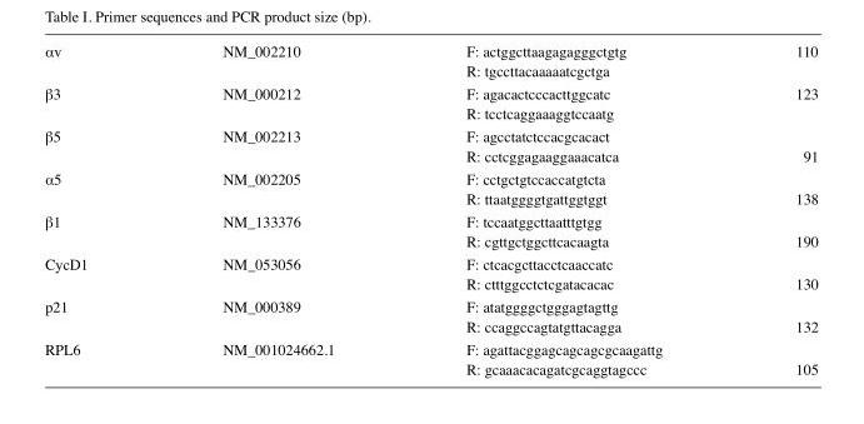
<table><tbody><tr><td rowspan="2">αv</td><td>NM_002210</td><td>F: actggcttaagagagggctgtg</td><td>110</td></tr><tr><td></td><td>R: tgccttacaaaaatcgctga</td><td></td></tr><tr><td rowspan="2">β3</td><td>NM_000212</td><td>F: agacactcccacttggcatc</td><td>123</td></tr><tr><td></td><td>R: tcctcaggaaaggtccaatg</td><td></td></tr><tr><td rowspan="2">β5</td><td>NM_002213</td><td>F: agcctatctccacgcacact</td><td></td></tr><tr><td></td><td>R: cctcggagaaggaaacatca</td><td>91</td></tr><tr><td rowspan="2">α5</td><td>NM_002205</td><td>F: cctgctgtccaccatgtcta</td><td></td></tr><tr><td></td><td>R: ttaatggggtgattggtggt</td><td>138</td></tr><tr><td rowspan="2">β1</td><td>NM_133376</td><td>F: tccaatggcttaatttgtgg</td><td></td></tr><tr><td></td><td>R: cgttgctggcttcacaagta</td><td>190</td></tr><tr><td rowspan="2">CycD1</td><td>NM_053056</td><td>F: ctcacgcttacctcaaccatc</td><td></td></tr><tr><td></td><td>R: ctttggcctctcgatacacac</td><td>130</td></tr><tr><td rowspan="2">p21</td><td>NM_000389</td><td>F: atatggggctgggagtagttg</td><td></td></tr><tr><td></td><td>R: ccaggccagtatgttacagga</td><td>132</td></tr><tr><td rowspan="2">RPL6</td><td>NM_001024662.1</td><td>F: agattacggagcagcagcgcaagattg</td><td></td></tr><tr><td></td><td>R: gcaaacacagatcgcaggtagccc</td><td>105</td></tr></tbody></table>